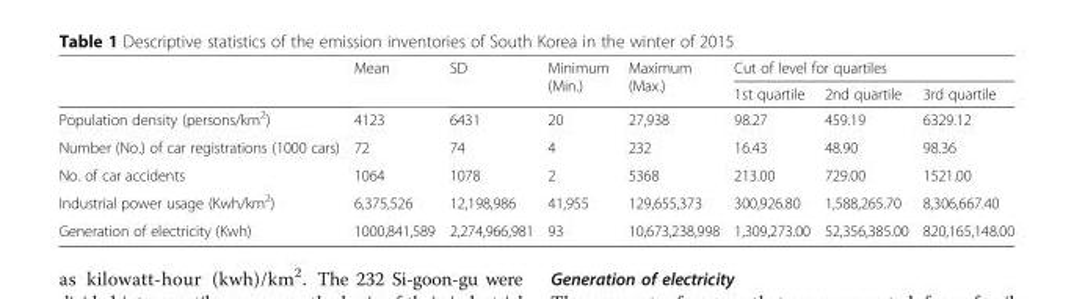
<table><thead><tr><td rowspan="2"></td><td rowspan="2">Mean</td><td rowspan="2">SD</td><td rowspan="2">Minimum (Min.)</td><td rowspan="2">Maximum (Max.)</td><td colspan="3">Cut of level for quartiles</td></tr><tr><td>1st quartile</td><td>2nd quartile</td><td>3rd quartile</td></tr></thead><tbody><tr><td>Population density (persons/km<sup>2</sup>)</td><td>4123</td><td>6431</td><td>20</td><td>27,938</td><td>98.27</td><td>459.19</td><td>6329.12</td></tr><tr><td>Number (No.) of car registrations (1000 cars)</td><td>72</td><td>74</td><td>4</td><td>232</td><td>16.43</td><td>48.90</td><td>98.36</td></tr><tr><td>No. of car accidents</td><td>1064</td><td>1078</td><td>2</td><td>5368</td><td>213.00</td><td>729.00</td><td>1521.00</td></tr><tr><td>Industrial power usage (Kwh/km<sup>2</sup>)</td><td>6,375,526</td><td>12,198,986</td><td>41,955</td><td>129,655,373</td><td>300,926.80</td><td>1,588,265.70</td><td>8,306,667.40</td></tr><tr><td>Generation of electricity (Kwh)</td><td>1000,841,589</td><td>2,274,966,981</td><td>93</td><td>10,673,238,998</td><td>1,309,273.00</td><td>52,356,385.00</td><td>820,165,148.00</td></tr></tbody></table>